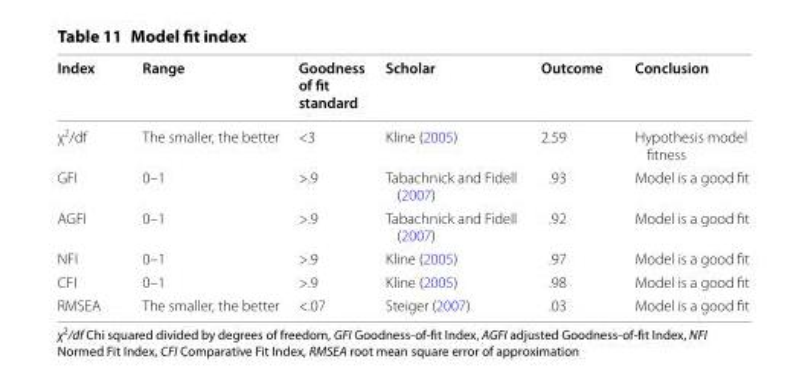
<table><thead><tr><td>Index</td><td>Range</td><td>Goodness of fit standard</td><td>Scholar</td><td>Outcome</td><td>Conclusion</td></tr></thead><tbody><tr><td>χ<sup>2</sup>/df</td><td>The smaller, the better</td><td>&lt;3</td><td>Kline (2005)</td><td>2.59</td><td>Hypothesis model fitness</td></tr><tr><td>GFI</td><td>0–1</td><td>&gt;.9</td><td>Tabachnick and Fidell (2007)</td><td>.93</td><td>Model is a good fit</td></tr><tr><td>AGFI</td><td>0–1</td><td>&gt;.9</td><td>Tabachnick and Fidell (2007)</td><td>.92</td><td>Model is a good fit</td></tr><tr><td>NFI</td><td>0–1</td><td>&gt;.9</td><td>Kline (2005)</td><td>.97</td><td>Model is a good fit</td></tr><tr><td>CFI</td><td>0–1</td><td>&gt;.9</td><td>Kline (2005)</td><td>.98</td><td>Model is a good fit</td></tr><tr><td>RMSEA</td><td>The smaller, the better</td><td>&lt;.07</td><td>Steiger (2007)</td><td>.03</td><td>Model is a good fit</td></tr></tbody></table>